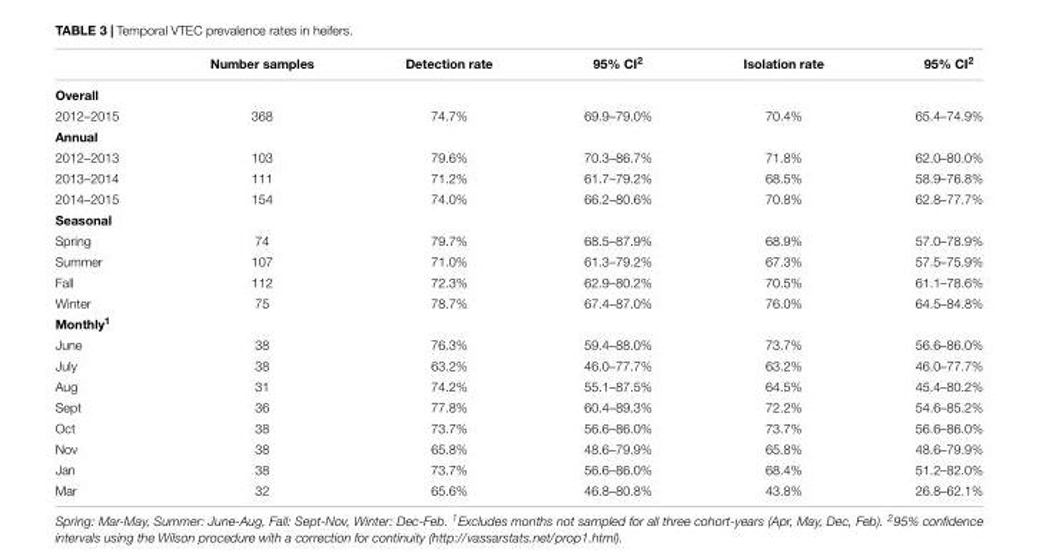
<table><thead><tr><td></td><td>Number samples</td><td>Detection rate</td><td>95% CI<sup>2</sup></td><td>Isolation rate</td><td>95% CI<sup>2</sup></td></tr></thead><tbody><tr><td colspan="6">Overall</td></tr><tr><td>2012–2015</td><td>368</td><td>74.7%</td><td>69.9–79.0%</td><td>70.4%</td><td>65.4–74.9%</td></tr><tr><td colspan="6">Annual</td></tr><tr><td>2012–2013</td><td>103</td><td>79.6%</td><td>70.3–86.7%</td><td>71.8%</td><td>62.0–80.0%</td></tr><tr><td>2013–2014</td><td>111</td><td>71.2%</td><td>61.7–79.2%</td><td>68.5%</td><td>58.9–76.8%</td></tr><tr><td>2014–2015</td><td>154</td><td>74.0%</td><td>66.2–80.6%</td><td>70.8%</td><td>62.8–77.7%</td></tr><tr><td colspan="6">Seasonal</td></tr><tr><td>Spring</td><td>74</td><td>79.7%</td><td>68.5–87.9%</td><td>68.9%</td><td>57.0–78.9%</td></tr><tr><td>Summer</td><td>107</td><td>71.0%</td><td>61.3–79.2%</td><td>67.3%</td><td>57.5–75.9%</td></tr><tr><td>Fall</td><td>112</td><td>72.3%</td><td>62.9–80.2%</td><td>70.5%</td><td>61.1–78.6%</td></tr><tr><td>Winter</td><td>75</td><td>78.7%</td><td>67.4–87.0%</td><td>76.0%</td><td>64.5–84.8%</td></tr><tr><td colspan="6">Monthly<sup>1</sup></td></tr><tr><td>June</td><td>38</td><td>76.3%</td><td>59.4–88.0%</td><td>73.7%</td><td>56.6–86.0%</td></tr><tr><td>July</td><td>38</td><td>63.2%</td><td>46.0–77.7%</td><td>63.2%</td><td>46.0–77.7%</td></tr><tr><td>Aug</td><td>31</td><td>74.2%</td><td>55.1–87.5%</td><td>64.5%</td><td>45.4–80.2%</td></tr><tr><td>Sept</td><td>36</td><td>77.8%</td><td>60.4–89.3%</td><td>72.2%</td><td>54.6–85.2%</td></tr><tr><td>Oct</td><td>38</td><td>73.7%</td><td>56.6–86.0%</td><td>73.7%</td><td>56.6–86.0%</td></tr><tr><td>Nov</td><td>38</td><td>65.8%</td><td>48.6–79.9%</td><td>65.8%</td><td>48.6–79.9%</td></tr><tr><td>Jan</td><td>38</td><td>73.7%</td><td>56.6–86.0%</td><td>68.4%</td><td>51.2–82.0%</td></tr><tr><td>Mar</td><td>32</td><td>65.6%</td><td>46.8–80.8%</td><td>43.8%</td><td>26.8–62.1%</td></tr></tbody></table>